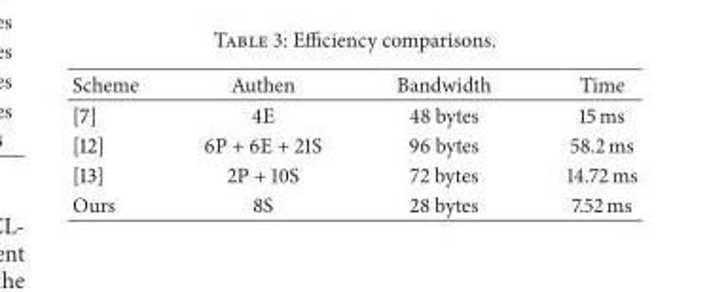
<table><thead><tr><td>Scheme</td><td>Authen</td><td>Bandwidth</td><td>Time</td></tr></thead><tbody><tr><td>[7]</td><td>4E</td><td>48 bytes</td><td>15 ms</td></tr><tr><td>[12]</td><td>6P + 6E + 21S</td><td>96 bytes</td><td>58.2 ms</td></tr><tr><td>[13]</td><td>2P + 10S</td><td>72 bytes</td><td>14.72 ms</td></tr><tr><td>Ours</td><td>8S</td><td>28 bytes</td><td>7.52 ms</td></tr></tbody></table>